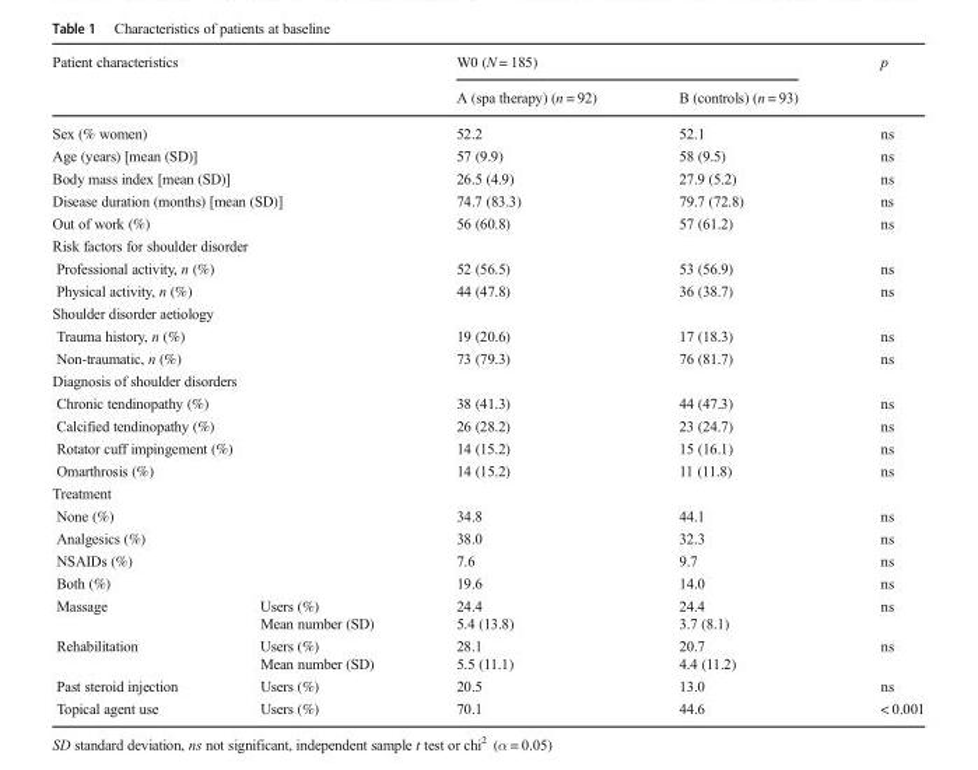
<table><thead><tr><td rowspan="2" colspan="2">Patient characteristics</td><td colspan="2">W0 (N = 185)</td><td rowspan="2">p</td></tr><tr><td>A (spa therapy) (n = 92)</td><td>B (controls) (n = 93)</td></tr></thead><tbody><tr><td colspan="2">Sex (% women)</td><td>52.2</td><td>52.1</td><td>ns</td></tr><tr><td colspan="2">Age (years) [mean (SD)]</td><td>57 (9.9)</td><td>58 (9.5)</td><td>ns</td></tr><tr><td colspan="2">Body mass index [mean (SD)]</td><td>26.5 (4.9)</td><td>27.9 (5.2)</td><td>ns</td></tr><tr><td colspan="2">Disease duration (months) [mean (SD)]</td><td>74.7 (83.3)</td><td>79.7 (72.8)</td><td>ns</td></tr><tr><td colspan="2">Out of work (%)</td><td>56 (60.8)</td><td>57 (61.2)</td><td>ns</td></tr><tr><td colspan="5">Risk factors for shoulder disorder</td></tr><tr><td colspan="2">Professional activity, n (%)</td><td>52 (56.5)</td><td>53 (56.9)</td><td>ns</td></tr><tr><td colspan="2">Physical activity, n (%)</td><td>44 (47.8)</td><td>36 (38.7)</td><td>ns</td></tr><tr><td colspan="5">Shoulder disorder aetiology</td></tr><tr><td colspan="2">Trauma history, n (%)</td><td>19 (20.6)</td><td>17 (18.3)</td><td>ns</td></tr><tr><td colspan="2">Non-traumatic, n (%)</td><td>73 (79.3)</td><td>76 (81.7)</td><td>ns</td></tr><tr><td colspan="5">Diagnosis of shoulder disorders</td></tr><tr><td colspan="2">Chronic tendinopathy (%)</td><td>38 (41.3)</td><td>44 (47.3)</td><td>ns</td></tr><tr><td colspan="2">Calcified tendinopathy (%)</td><td>26 (28.2)</td><td>23 (24.7)</td><td>ns</td></tr><tr><td colspan="2">Rotator cuff impingement (%)</td><td>14 (15.2)</td><td>15 (16.1)</td><td>ns</td></tr><tr><td colspan="2">Omarthrosis (%)</td><td>14 (15.2)</td><td>11 (11.8)</td><td>ns</td></tr><tr><td colspan="5">Treatment</td></tr><tr><td colspan="2">None (%)</td><td>34.8</td><td>44.1</td><td>ns</td></tr><tr><td colspan="2">Analgesics (%)</td><td>38.0</td><td>32.3</td><td>ns</td></tr><tr><td colspan="2">NSAIDs (%)</td><td>7.6</td><td>9.7</td><td>ns</td></tr><tr><td colspan="2">Both (%)</td><td>19.6</td><td>14.0</td><td>ns</td></tr><tr><td rowspan="2">Massage</td><td>Users (%)</td><td>24.4</td><td>24.4</td><td rowspan="2">ns</td></tr><tr><td>Mean number (SD)</td><td>5.4 (13.8)</td><td>3.7 (8.1)</td></tr><tr><td rowspan="2">Rehabilitation</td><td>Users (%)</td><td>28.1</td><td>20.7</td><td rowspan="2">ns</td></tr><tr><td>Mean number (SD)</td><td>5.5 (11.1)</td><td>4.4 (11.2)</td></tr><tr><td>Past steroid injection</td><td>Users (%)</td><td>20.5</td><td>13.0</td><td>ns</td></tr><tr><td>Topical agent use</td><td>Users (%)</td><td>70.1</td><td>44.6</td><td>&lt; 0.001</td></tr></tbody></table>